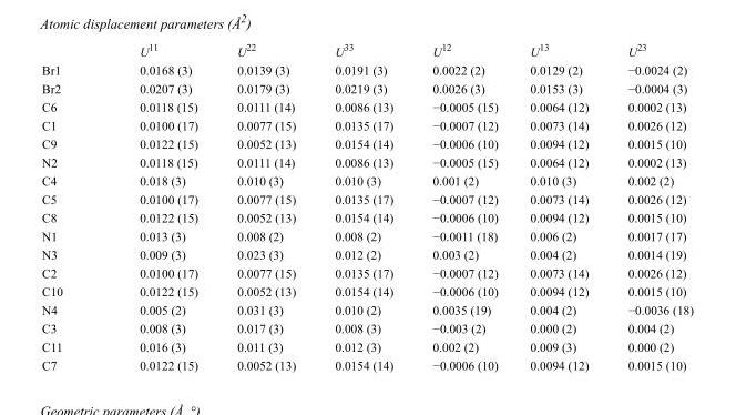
<table><thead><tr><td></td><td>U<sup>11</sup></td><td>U<sup>22</sup></td><td>U<sup>33</sup></td><td>U<sup>12</sup></td><td>U<sup>13</sup></td><td>U<sup>23</sup></td></tr></thead><tbody><tr><td>Br1</td><td>0.0168 (3)</td><td>0.0139 (3)</td><td>0.0191 (3)</td><td>0.0022 (2)</td><td>0.0129 (2)</td><td>−0.0024 (2)</td></tr><tr><td>Br2</td><td>0.0207 (3)</td><td>0.0179 (3)</td><td>0.0219 (3)</td><td>0.0026 (3)</td><td>0.0153 (3)</td><td>−0.0004 (3)</td></tr><tr><td>C6</td><td>0.0118 (15)</td><td>0.0111 (14)</td><td>0.0086 (13)</td><td>−0.0005 (15)</td><td>0.0064 (12)</td><td>0.0002 (13)</td></tr><tr><td>C1</td><td>0.0100 (17)</td><td>0.0077 (15)</td><td>0.0135 (17)</td><td>−0.0007 (12)</td><td>0.0073 (14)</td><td>0.0026 (12)</td></tr><tr><td>C9</td><td>0.0122 (15)</td><td>0.0052 (13)</td><td>0.0154 (14)</td><td>−0.0006 (10)</td><td>0.0094 (12)</td><td>0.0015 (10)</td></tr><tr><td>N2</td><td>0.0118 (15)</td><td>0.0111 (14)</td><td>0.0086 (13)</td><td>−0.0005 (15)</td><td>0.0064 (12)</td><td>0.0002 (13)</td></tr><tr><td>C4</td><td>0.018 (3)</td><td>0.010 (3)</td><td>0.010 (3)</td><td>0.001 (2)</td><td>0.010 (3)</td><td>0.002 (2)</td></tr><tr><td>C5</td><td>0.0100 (17)</td><td>0.0077 (15)</td><td>0.0135 (17)</td><td>−0.0007 (12)</td><td>0.0073 (14)</td><td>0.0026 (12)</td></tr><tr><td>C8</td><td>0.0122 (15)</td><td>0.0052 (13)</td><td>0.0154 (14)</td><td>−0.0006 (10)</td><td>0.0094 (12)</td><td>0.0015 (10)</td></tr><tr><td>N1</td><td>0.013 (3)</td><td>0.008 (2)</td><td>0.008 (2)</td><td>−0.0011 (18)</td><td>0.006 (2)</td><td>0.0017 (17)</td></tr><tr><td>N3</td><td>0.009 (3)</td><td>0.023 (3)</td><td>0.012 (2)</td><td>0.003 (2)</td><td>0.004 (2)</td><td>0.0014 (19)</td></tr><tr><td>C2</td><td>0.0100 (17)</td><td>0.0077 (15)</td><td>0.0135 (17)</td><td>−0.0007 (12)</td><td>0.0073 (14)</td><td>0.0026 (12)</td></tr><tr><td>C10</td><td>0.0122 (15)</td><td>0.0052 (13)</td><td>0.0154 (14)</td><td>−0.0006 (10)</td><td>0.0094 (12)</td><td>0.0015 (10)</td></tr><tr><td>N4</td><td>0.005 (2)</td><td>0.031 (3)</td><td>0.010 (2)</td><td>0.0035 (19)</td><td>0.004 (2)</td><td>−0.0036 (18)</td></tr><tr><td>C3</td><td>0.008 (3)</td><td>0.017 (3)</td><td>0.008 (3)</td><td>−0.003 (2)</td><td>0.000 (2)</td><td>0.004 (2)</td></tr><tr><td>C11</td><td>0.016 (3)</td><td>0.011 (3)</td><td>0.012 (3)</td><td>0.002 (2)</td><td>0.009 (3)</td><td>0.000 (2)</td></tr><tr><td>C7</td><td>0.0122 (15)</td><td>0.0052 (13)</td><td>0.0154 (14)</td><td>−0.0006 (10)</td><td>0.0094 (12)</td><td>0.0015 (10)</td></tr></tbody></table>